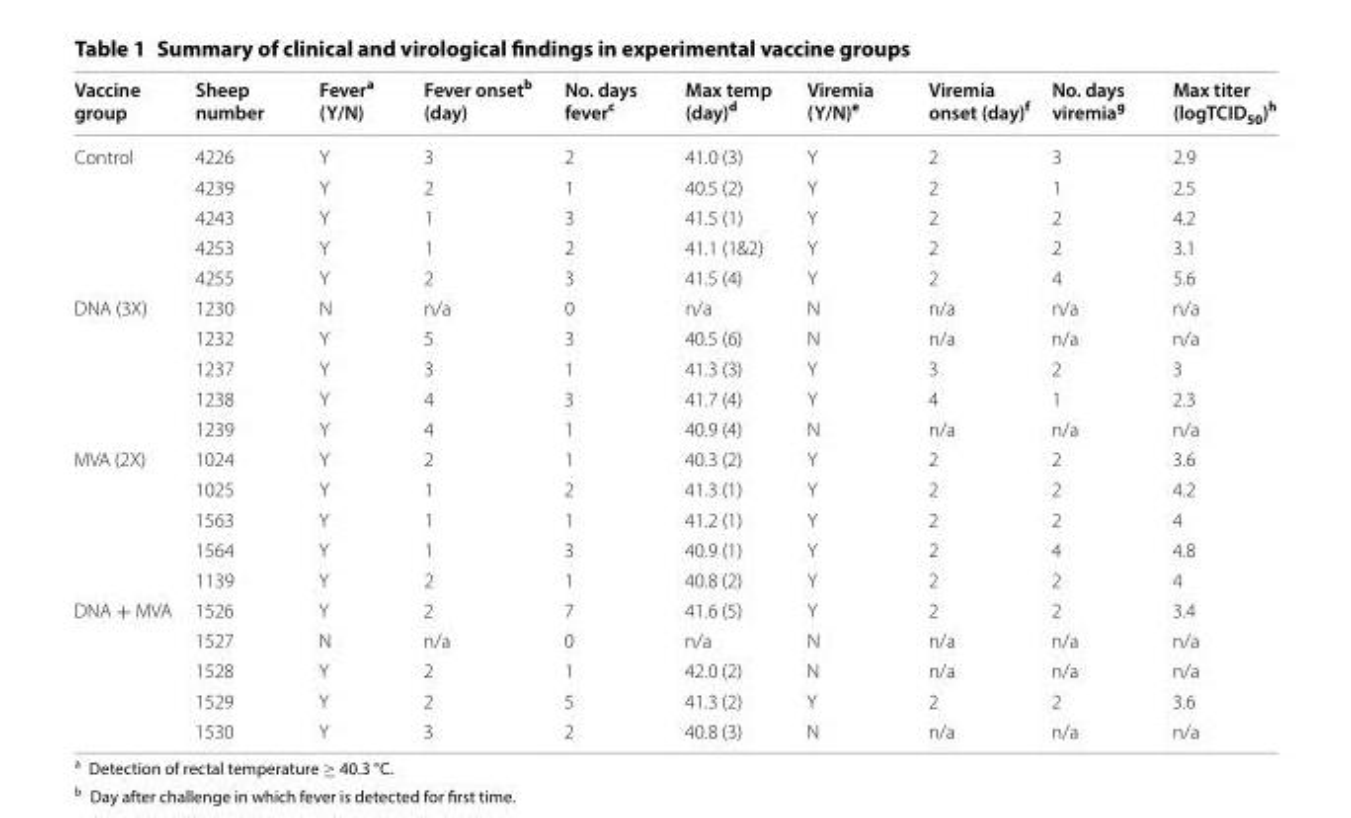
<table><thead><tr><td>Vaccine group</td><td>Sheep number</td><td>Fever<sup>a</sup> (Y/N)</td><td>Fever onset<sup>b</sup> (day)</td><td>No. days fever<sup>c</sup></td><td>Max temp (day)<sup>d</sup></td><td>Viremia (Y/N)<sup>e</sup></td><td>Viremia onset (day)<sup>f</sup></td><td>No. days viremia<sup>g</sup></td><td>Max titer (logTCID<sub>50</sub>)<sup>h</sup></td></tr></thead><tbody><tr><td rowspan="5">Control</td><td>4226</td><td>Y</td><td>3</td><td>2</td><td>41.0 (3)</td><td>Y</td><td>2</td><td>3</td><td>2.9</td></tr><tr><td>4239</td><td>Y</td><td>2</td><td>1</td><td>40.5 (2)</td><td>Y</td><td>2</td><td>1</td><td>2.5</td></tr><tr><td>4243</td><td>Y</td><td>1</td><td>3</td><td>41.5 (1)</td><td>Y</td><td>2</td><td>2</td><td>4.2</td></tr><tr><td>4253</td><td>Y</td><td>1</td><td>2</td><td>41.1 (1&amp;2)</td><td>Y</td><td>2</td><td>2</td><td>3.1</td></tr><tr><td>4255</td><td>Y</td><td>2</td><td>3</td><td>41.5 (4)</td><td>Y</td><td>2</td><td>4</td><td>5.6</td></tr><tr><td rowspan="5">DNA (3X)</td><td>1230</td><td>N</td><td>n/a</td><td>0</td><td>n/a</td><td>N</td><td>n/a</td><td>n/a</td><td>n/a</td></tr><tr><td>1232</td><td>Y</td><td>5</td><td>3</td><td>40.5 (6)</td><td>N</td><td>n/a</td><td>n/a</td><td>n/a</td></tr><tr><td>1237</td><td>Y</td><td>3</td><td>1</td><td>41.3 (3)</td><td>Y</td><td>3</td><td>2</td><td>3</td></tr><tr><td>1238</td><td>Y</td><td>4</td><td>3</td><td>41.7 (4)</td><td>Y</td><td>4</td><td>1</td><td>2.3</td></tr><tr><td>1239</td><td>Y</td><td>4</td><td>1</td><td>40.9 (4)</td><td>N</td><td>n/a</td><td>n/a</td><td>n/a</td></tr><tr><td rowspan="5">MVA (2X)</td><td>1024</td><td>Y</td><td>2</td><td>1</td><td>40.3 (2)</td><td>Y</td><td>2</td><td>2</td><td>3.6</td></tr><tr><td>1025</td><td>Y</td><td>1</td><td>2</td><td>41.3 (1)</td><td>Y</td><td>2</td><td>2</td><td>4.2</td></tr><tr><td>1563</td><td>Y</td><td>1</td><td>1</td><td>41.2 (1)</td><td>Y</td><td>2</td><td>2</td><td>4</td></tr><tr><td>1564</td><td>Y</td><td>1</td><td>3</td><td>40.9 (1)</td><td>Y</td><td>2</td><td>4</td><td>4.8</td></tr><tr><td>1139</td><td>Y</td><td>2</td><td>1</td><td>40.8 (2)</td><td>Y</td><td>2</td><td>2</td><td>4</td></tr><tr><td rowspan="5">DNA + MVA</td><td>1526</td><td>Y</td><td>2</td><td>7</td><td>41.6 (5)</td><td>Y</td><td>2</td><td>2</td><td>3.4</td></tr><tr><td>1527</td><td>N</td><td>n/a</td><td>0</td><td>n/a</td><td>N</td><td>n/a</td><td>n/a</td><td>n/a</td></tr><tr><td>1528</td><td>Y</td><td>2</td><td>1</td><td>42.0 (2)</td><td>N</td><td>n/a</td><td>n/a</td><td>n/a</td></tr><tr><td>1529</td><td>Y</td><td>2</td><td>5</td><td>41.3 (2)</td><td>Y</td><td>2</td><td>2</td><td>3.6</td></tr><tr><td>1530</td><td>Y</td><td>3</td><td>2</td><td>40.8 (3)</td><td>N</td><td>n/a</td><td>n/a</td><td>n/a</td></tr></tbody></table>